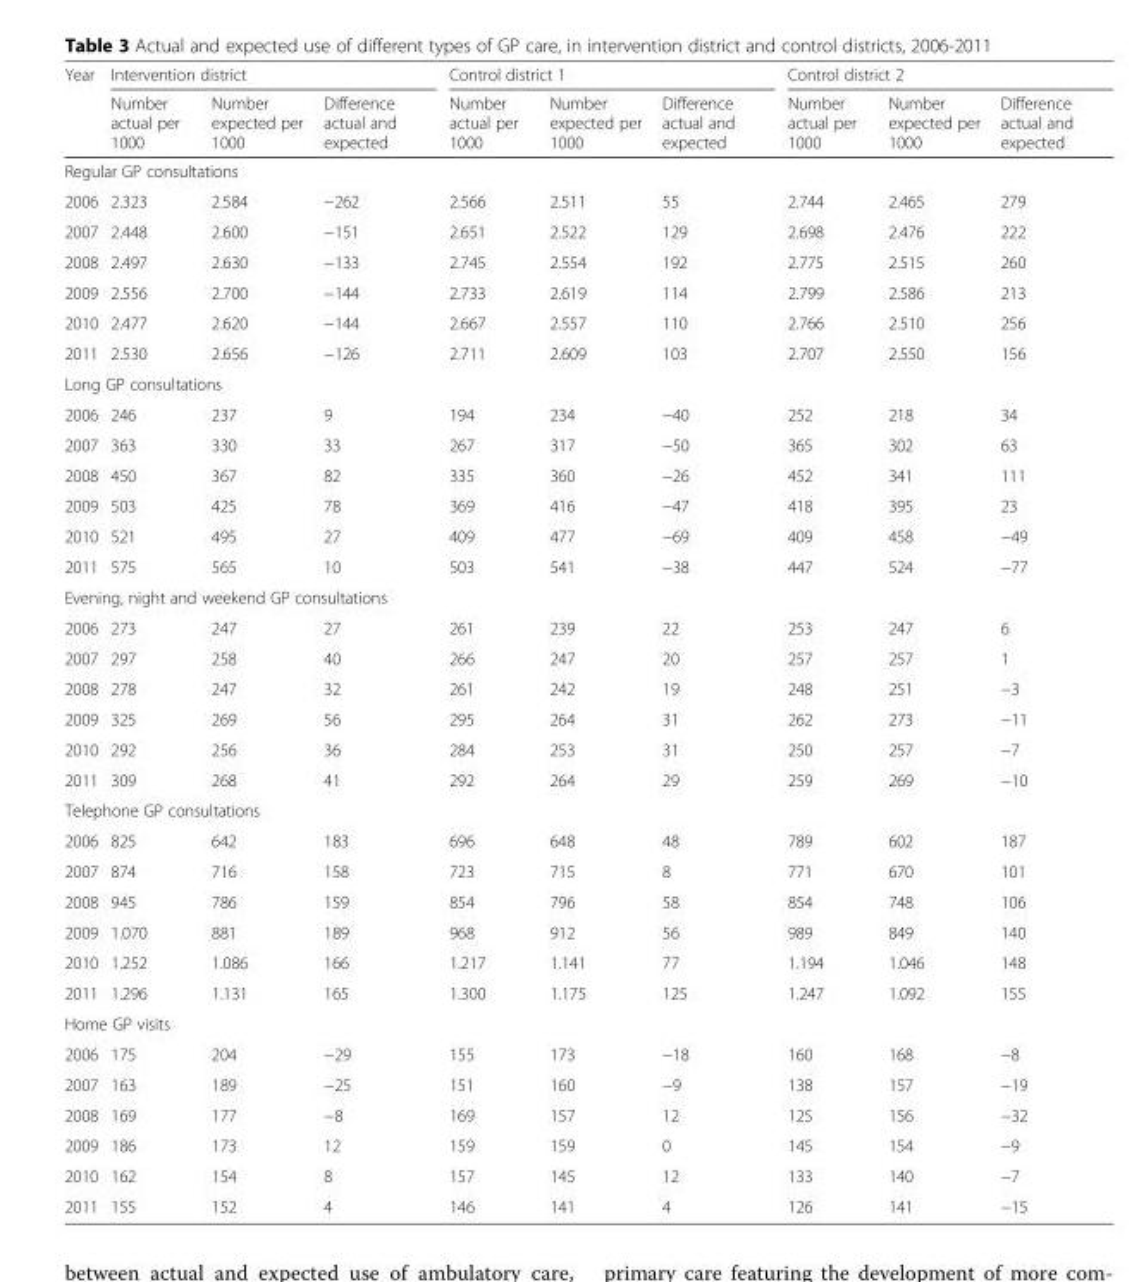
<table><thead><tr><td rowspan="2">Year</td><td colspan="3">Intervention district</td><td colspan="3">Control district 1</td><td colspan="3">Control district 2</td></tr><tr><td>Number actual per 1000</td><td>Number expected per 1000</td><td>Difference actual and expected</td><td>Number actual per 1000</td><td>Number expected per 1000</td><td>Difference actual and expected</td><td>Number actual per 1000</td><td>Number expected per 1000</td><td>Difference actual and expected</td></tr></thead><tbody><tr><td colspan="10">Regular GP consultations</td></tr><tr><td>2006</td><td>2.323</td><td>2.584</td><td>−262</td><td>2.566</td><td>2.511</td><td>55</td><td>2.744</td><td>2.465</td><td>279</td></tr><tr><td>2007</td><td>2.448</td><td>2.600</td><td>−151</td><td>2.651</td><td>2.522</td><td>129</td><td>2.698</td><td>2.476</td><td>222</td></tr><tr><td>2008</td><td>2.497</td><td>2.630</td><td>−133</td><td>2.745</td><td>2.554</td><td>192</td><td>2.775</td><td>2.515</td><td>260</td></tr><tr><td>2009</td><td>2.556</td><td>2.700</td><td>−144</td><td>2.733</td><td>2.619</td><td>114</td><td>2.799</td><td>2.586</td><td>213</td></tr><tr><td>2010</td><td>2.477</td><td>2.620</td><td>−144</td><td>2.667</td><td>2.557</td><td>110</td><td>2.766</td><td>2.510</td><td>256</td></tr><tr><td>2011</td><td>2.530</td><td>2.656</td><td>−126</td><td>2.711</td><td>2.609</td><td>103</td><td>2.707</td><td>2.550</td><td>156</td></tr><tr><td colspan="10">Long GP consultations</td></tr><tr><td>2006</td><td>246</td><td>237</td><td>9</td><td>194</td><td>234</td><td>−40</td><td>252</td><td>218</td><td>34</td></tr><tr><td>2007</td><td>363</td><td>330</td><td>33</td><td>267</td><td>317</td><td>−50</td><td>365</td><td>302</td><td>63</td></tr><tr><td>2008</td><td>450</td><td>367</td><td>82</td><td>335</td><td>360</td><td>−26</td><td>452</td><td>341</td><td>111</td></tr><tr><td>2009</td><td>503</td><td>425</td><td>78</td><td>369</td><td>416</td><td>−47</td><td>418</td><td>395</td><td>23</td></tr><tr><td>2010</td><td>521</td><td>495</td><td>27</td><td>409</td><td>477</td><td>−69</td><td>409</td><td>458</td><td>−49</td></tr><tr><td>2011</td><td>575</td><td>565</td><td>10</td><td>503</td><td>541</td><td>−38</td><td>447</td><td>524</td><td>−77</td></tr><tr><td colspan="10">Evening, night and weekend GP consultations</td></tr><tr><td>2006</td><td>273</td><td>247</td><td>27</td><td>261</td><td>239</td><td>22</td><td>253</td><td>247</td><td>6</td></tr><tr><td>2007</td><td>297</td><td>258</td><td>40</td><td>266</td><td>247</td><td>20</td><td>257</td><td>257</td><td>1</td></tr><tr><td>2008</td><td>278</td><td>247</td><td>32</td><td>261</td><td>242</td><td>19</td><td>248</td><td>251</td><td>−3</td></tr><tr><td>2009</td><td>325</td><td>269</td><td>56</td><td>295</td><td>264</td><td>31</td><td>262</td><td>273</td><td>−11</td></tr><tr><td>2010</td><td>292</td><td>256</td><td>36</td><td>284</td><td>253</td><td>31</td><td>250</td><td>257</td><td>−7</td></tr><tr><td>2011</td><td>309</td><td>268</td><td>41</td><td>292</td><td>264</td><td>29</td><td>259</td><td>269</td><td>−10</td></tr><tr><td colspan="10">Telephone GP consultations</td></tr><tr><td>2006</td><td>825</td><td>642</td><td>183</td><td>696</td><td>648</td><td>48</td><td>789</td><td>602</td><td>187</td></tr><tr><td>2007</td><td>874</td><td>716</td><td>158</td><td>723</td><td>715</td><td>8</td><td>771</td><td>670</td><td>101</td></tr><tr><td>2008</td><td>945</td><td>786</td><td>159</td><td>854</td><td>796</td><td>58</td><td>854</td><td>748</td><td>106</td></tr><tr><td>2009</td><td>1.070</td><td>881</td><td>189</td><td>968</td><td>912</td><td>56</td><td>989</td><td>849</td><td>140</td></tr><tr><td>2010</td><td>1.252</td><td>1.086</td><td>166</td><td>1.217</td><td>1.141</td><td>77</td><td>1.194</td><td>1.046</td><td>148</td></tr><tr><td>2011</td><td>1.296</td><td>1.131</td><td>165</td><td>1.300</td><td>1.175</td><td>125</td><td>1.247</td><td>1.092</td><td>155</td></tr><tr><td colspan="10">Home GP visits</td></tr><tr><td>2006</td><td>175</td><td>204</td><td>−29</td><td>155</td><td>173</td><td>−18</td><td>160</td><td>168</td><td>−8</td></tr><tr><td>2007</td><td>163</td><td>189</td><td>−25</td><td>151</td><td>160</td><td>−9</td><td>138</td><td>157</td><td>−19</td></tr><tr><td>2008</td><td>169</td><td>177</td><td>−8</td><td>169</td><td>157</td><td>12</td><td>125</td><td>156</td><td>−32</td></tr><tr><td>2009</td><td>186</td><td>173</td><td>12</td><td>159</td><td>159</td><td>0</td><td>145</td><td>154</td><td>−9</td></tr><tr><td>2010</td><td>162</td><td>154</td><td>8</td><td>157</td><td>145</td><td>12</td><td>133</td><td>140</td><td>−7</td></tr><tr><td>2011</td><td>155</td><td>152</td><td>4</td><td>146</td><td>141</td><td>4</td><td>126</td><td>141</td><td>−15</td></tr></tbody></table>